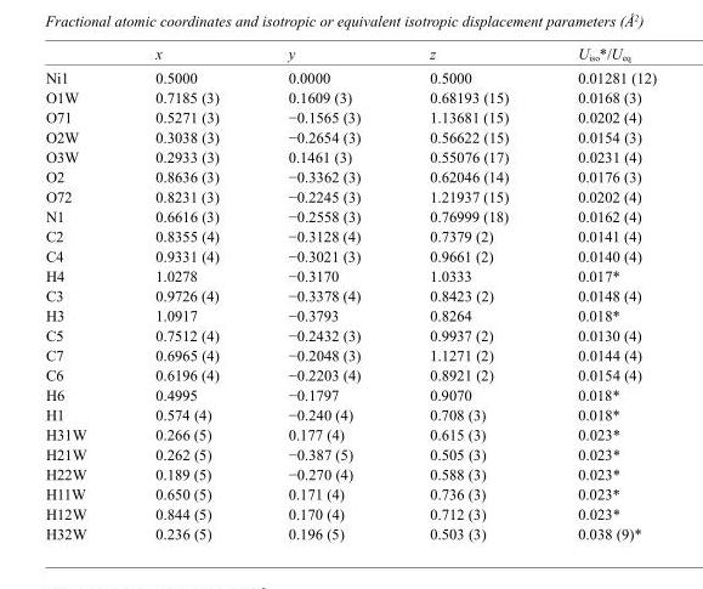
<table><thead><tr><td></td><td>x</td><td>y</td><td>z</td><td>U<sub>iso</sub>*/U<sub>eq</sub></td></tr></thead><tbody><tr><td>Ni1</td><td>0.5000</td><td>0.0000</td><td>0.5000</td><td>0.01281 (12)</td></tr><tr><td>O1W</td><td>0.7185 (3)</td><td>0.1609 (3)</td><td>0.68193 (15)</td><td>0.0168 (3)</td></tr><tr><td>O71</td><td>0.5271 (3)</td><td>−0.1565 (3)</td><td>1.13681 (15)</td><td>0.0202 (4)</td></tr><tr><td>O2W</td><td>0.3038 (3)</td><td>−0.2654 (3)</td><td>0.56622 (15)</td><td>0.0154 (3)</td></tr><tr><td>O3W</td><td>0.2933 (3)</td><td>0.1461 (3)</td><td>0.55076 (17)</td><td>0.0231 (4)</td></tr><tr><td>O2</td><td>0.8636 (3)</td><td>−0.3362 (3)</td><td>0.62046 (14)</td><td>0.0176 (3)</td></tr><tr><td>O72</td><td>0.8231 (3)</td><td>−0.2245 (3)</td><td>1.21937 (15)</td><td>0.0202 (4)</td></tr><tr><td>N1</td><td>0.6616 (3)</td><td>−0.2558 (3)</td><td>0.76999 (18)</td><td>0.0162 (4)</td></tr><tr><td>C2</td><td>0.8355 (4)</td><td>−0.3128 (4)</td><td>0.7379 (2)</td><td>0.0141 (4)</td></tr><tr><td>C4</td><td>0.9331 (4)</td><td>−0.3021 (3)</td><td>0.9661 (2)</td><td>0.0140 (4)</td></tr><tr><td>H4</td><td>1.0278</td><td>−0.3170</td><td>1.0333</td><td>0.017*</td></tr><tr><td>C3</td><td>0.9726 (4)</td><td>−0.3378 (4)</td><td>0.8423 (2)</td><td>0.0148 (4)</td></tr><tr><td>H3</td><td>1.0917</td><td>−0.3793</td><td>0.8264</td><td>0.018*</td></tr><tr><td>C5</td><td>0.7512 (4)</td><td>−0.2432 (3)</td><td>0.9937 (2)</td><td>0.0130 (4)</td></tr><tr><td>C7</td><td>0.6965 (4)</td><td>−0.2048 (3)</td><td>1.1271 (2)</td><td>0.0144 (4)</td></tr><tr><td>C6</td><td>0.6196 (4)</td><td>−0.2203 (4)</td><td>0.8921 (2)</td><td>0.0154 (4)</td></tr><tr><td>H6</td><td>0.4995</td><td>−0.1797</td><td>0.9070</td><td>0.018*</td></tr><tr><td>H1</td><td>0.574 (4)</td><td>−0.240 (4)</td><td>0.708 (3)</td><td>0.018*</td></tr><tr><td>H31W</td><td>0.266 (5)</td><td>0.177 (4)</td><td>0.615 (3)</td><td>0.023*</td></tr><tr><td>H21W</td><td>0.262 (5)</td><td>−0.387 (5)</td><td>0.505 (3)</td><td>0.023*</td></tr><tr><td>H22W</td><td>0.189 (5)</td><td>−0.270 (4)</td><td>0.588 (3)</td><td>0.023*</td></tr><tr><td>H11W</td><td>0.650 (5)</td><td>0.171 (4)</td><td>0.736 (3)</td><td>0.023*</td></tr><tr><td>H12W</td><td>0.844 (5)</td><td>0.170 (4)</td><td>0.712 (3)</td><td>0.023*</td></tr><tr><td>H32W</td><td>0.236 (5)</td><td>0.196 (5)</td><td>0.503 (3)</td><td>0.038 (9)*</td></tr></tbody></table>